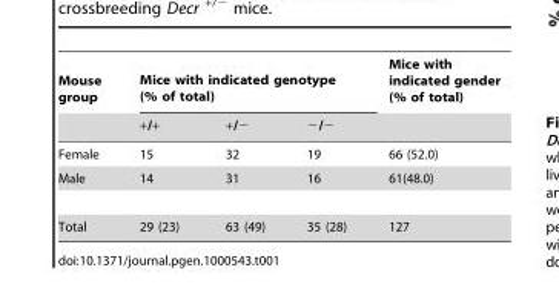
<table><thead><tr><td rowspan="2">Mouse group</td><td colspan="3">Mice with indicated genotype (% of total)</td><td rowspan="2">Mice with indicated gender (% of total)</td></tr><tr><td>+/+</td><td>+/−</td><td>−/−</td></tr></thead><tbody><tr><td>Female</td><td>15</td><td>32</td><td>19</td><td>66 (52.0)</td></tr><tr><td>Male</td><td>14</td><td>31</td><td>16</td><td>61(48.0)</td></tr><tr><td>Total</td><td>29 (23)</td><td>63 (49)</td><td>35 (28)</td><td>127</td></tr></tbody></table>